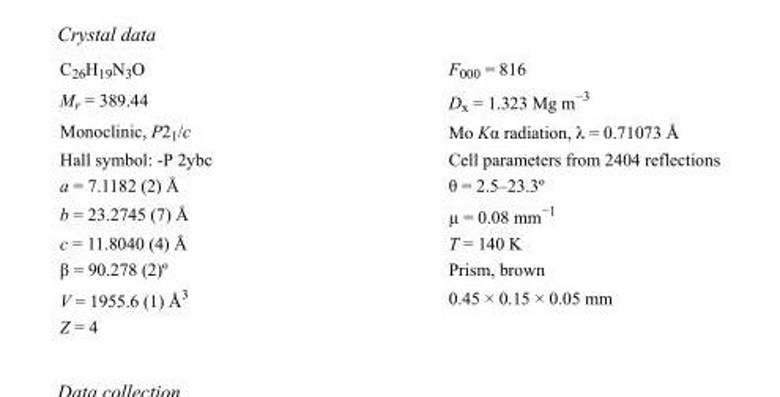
<table><tbody><tr><td>C<sub>26</sub>H<sub>19</sub>N<sub>3</sub>O</td><td>F000 = 816</td></tr><tr><td>M<sub>r</sub> = 389.44</td><td>D<sub>x</sub> = 1.323 Mg m<sup>−3</sup></td></tr><tr><td>Monoclinic, P2<sub>1</sub>/c</td><td>Mo Kα radiation, λ = 0.71073 Å</td></tr><tr><td>Hall symbol: -P 2ybc</td><td>Cell parameters from 2404 reflections</td></tr><tr><td>a = 7.1182 (2) Å</td><td>θ = 2.5–23.3º</td></tr><tr><td>b = 23.2745 (7) Å</td><td>µ = 0.08 mm<sup>−1</sup></td></tr><tr><td>c = 11.8040 (4) Å</td><td>T = 140 K</td></tr><tr><td>β = 90.278 (2)º</td><td>Prism, brown</td></tr><tr><td>V = 1955.6 (1) Å<sup>3</sup></td><td>0.45 × 0.15 × 0.05 mm</td></tr><tr><td>Z = 4</td><td></td></tr></tbody></table>